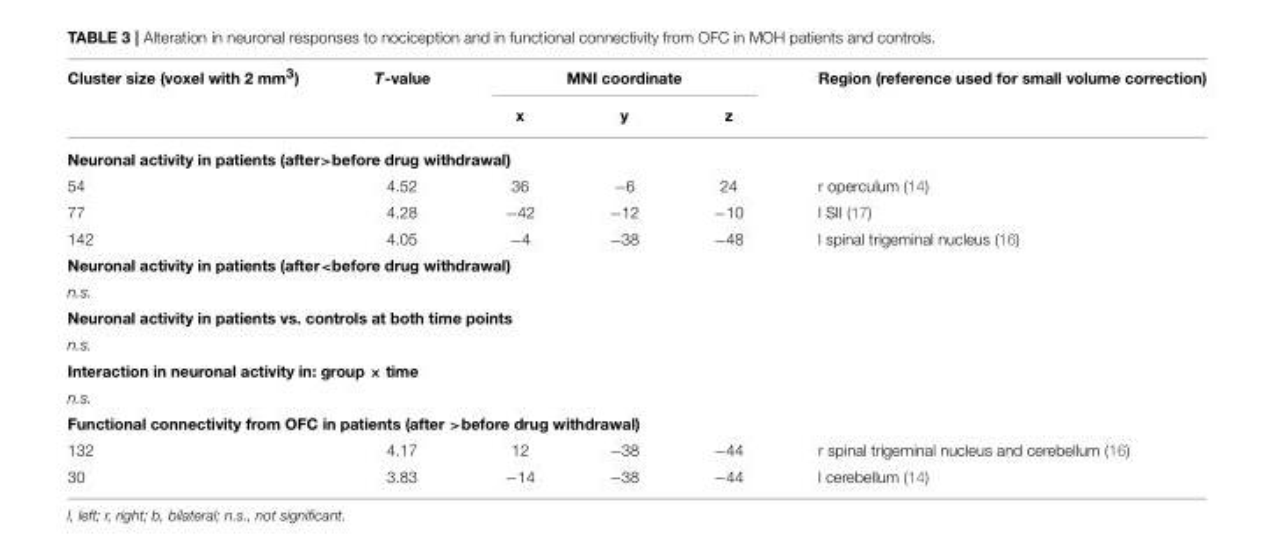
<table><thead><tr><td rowspan="2">Cluster size (voxel with 2 mm<sup>3</sup>)</td><td rowspan="2">T-value</td><td colspan="3">MNI coordinate</td><td rowspan="2">Region (reference used for small volume correction)</td></tr><tr><td>x</td><td>y</td><td>z</td></tr></thead><tbody><tr><td colspan="6">Neuronal activity in patients (after&gt;before drug withdrawal)</td></tr><tr><td>54</td><td>4.52</td><td>36</td><td>−6</td><td>24</td><td>r operculum (14)</td></tr><tr><td>77</td><td>4.28</td><td>−42</td><td>−12</td><td>−10</td><td>l SII (17)</td></tr><tr><td>142</td><td>4.05</td><td>−4</td><td>−38</td><td>−48</td><td>l spinal trigeminal nucleus (16)</td></tr><tr><td colspan="6">Neuronal activity in patients (after&lt;before drug withdrawal)</td></tr><tr><td colspan="6">n.s.</td></tr><tr><td colspan="6">Neuronal activity in patients vs. controls at both time points</td></tr><tr><td colspan="6">n.s.</td></tr><tr><td colspan="6">Interaction in neuronal activity in: group × time</td></tr><tr><td colspan="6">n.s.</td></tr><tr><td colspan="6">Functional connectivity from OFC in patients (after &gt;before drug withdrawal)</td></tr><tr><td>132</td><td>4.17</td><td>12</td><td>−38</td><td>−44</td><td>r spinal trigeminal nucleus and cerebellum (16)</td></tr><tr><td>30</td><td>3.83</td><td>−14</td><td>−38</td><td>−44</td><td>l cerebellum (14)</td></tr></tbody></table>